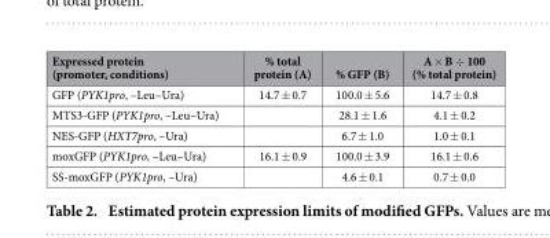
<table><thead><tr><td>Expressed protein (promoter, conditions)</td><td>% total protein (A)</td><td>% GFP (B)</td><td>A × B ÷ 100 (% total protein)</td></tr></thead><tbody><tr><td>GFP (PYK1pro, –Leu–Ura)</td><td>14.7 ± 0.7</td><td>100.0 ± 5.6</td><td>14.7 ± 0.8</td></tr><tr><td>MTS3-GFP (PYK1pro, –Leu–Ura)</td><td></td><td>28.1 ± 1.6</td><td>4.1 ± 0.2</td></tr><tr><td>NES-GFP (HXT7pro, –Ura)</td><td></td><td>6.7 ± 1.0</td><td>1.0 ± 0.1</td></tr><tr><td>moxGFP (PYK1pro, –Leu–Ura)</td><td>16.1 ± 0.9</td><td>100.0 ± 3.9</td><td>16.1 ± 0.6</td></tr><tr><td>SS-moxGFP (PYK1pro, –Ura)</td><td></td><td>4.6 ± 0.1</td><td>0.7 ± 0.0</td></tr></tbody></table>